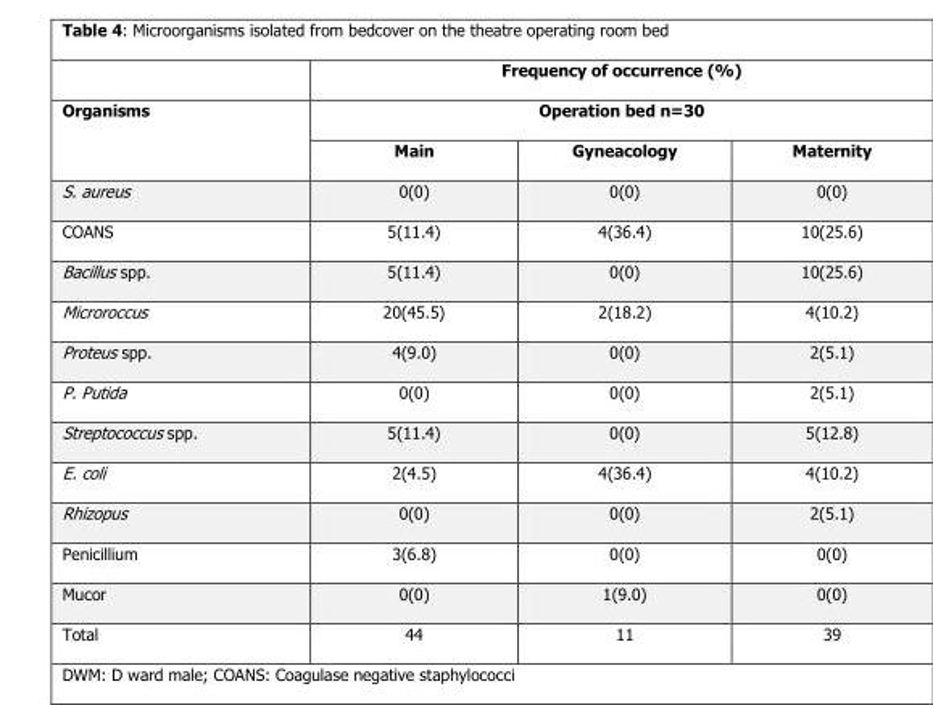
<table><thead><tr><td rowspan="3">Organisms</td><td rowspan="2" colspan="3">Frequency of occurrence (%) Operation bed n=30</td></tr><tr></tr><tr><td>Main</td><td>Gyneacology</td><td>Maternity</td></tr></thead><tbody><tr><td>S. aureus</td><td>0(0)</td><td>0(0)</td><td>0(0)</td></tr><tr><td>COANS</td><td>5(11.4)</td><td>4(36.4)</td><td>10(25.6)</td></tr><tr><td>Bacillus spp.</td><td>5(11.4)</td><td>0(0)</td><td>10(25.6)</td></tr><tr><td>Microroccus</td><td>20(45.5)</td><td>2(18.2)</td><td>4(10.2)</td></tr><tr><td>Proteus spp.</td><td>4(9.0)</td><td>0(0)</td><td>2(5.1)</td></tr><tr><td>P. Putida</td><td>0(0)</td><td>0(0)</td><td>2(5.1)</td></tr><tr><td>Streptococcus spp.</td><td>5(11.4)</td><td>0(0)</td><td>5(12.8)</td></tr><tr><td>E. coli</td><td>2(4.5)</td><td>4(36.4)</td><td>4(10.2)</td></tr><tr><td>Rhizopus</td><td>0(0)</td><td>0(0)</td><td>2(5.1)</td></tr><tr><td>Penicillium</td><td>3(6.8)</td><td>0(0)</td><td>0(0)</td></tr><tr><td>Mucor</td><td>0(0)</td><td>1(9.0)</td><td>0(0)</td></tr><tr><td>Total</td><td>44</td><td>11</td><td>39</td></tr></tbody></table>